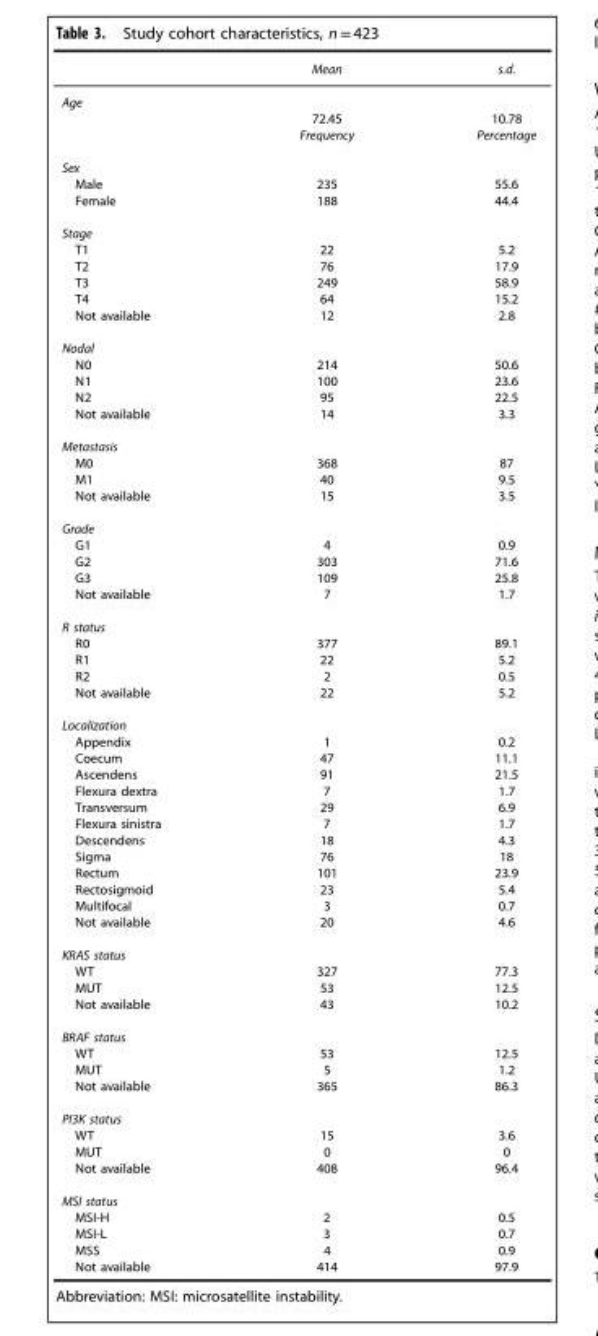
<table><thead><tr><td></td><td>Mean</td><td>s.d.</td></tr></thead><tbody><tr><td colspan="3">Age</td></tr><tr><td></td><td>72.45</td><td>10.78</td></tr><tr><td></td><td>Frequency</td><td>Percentage</td></tr><tr><td colspan="3">Sex</td></tr><tr><td>Male</td><td>235</td><td>55.6</td></tr><tr><td>Female</td><td>188</td><td>44.4</td></tr><tr><td colspan="3">Stage</td></tr><tr><td>T1</td><td>22</td><td>5.2</td></tr><tr><td>T2</td><td>76</td><td>17.9</td></tr><tr><td>T3</td><td>249</td><td>58.9</td></tr><tr><td>T4</td><td>64</td><td>15.2</td></tr><tr><td>Not available</td><td>12</td><td>2.8</td></tr><tr><td colspan="3">Nodal</td></tr><tr><td>N0</td><td>214</td><td>50.6</td></tr><tr><td>N1</td><td>100</td><td>23.6</td></tr><tr><td>N2</td><td>95</td><td>22.5</td></tr><tr><td>Not available</td><td>14</td><td>3.3</td></tr><tr><td colspan="3">Metastasis</td></tr><tr><td>M0</td><td>368</td><td>87</td></tr><tr><td>M1</td><td>40</td><td>9.5</td></tr><tr><td>Not available</td><td>15</td><td>3.5</td></tr><tr><td colspan="3">Grade</td></tr><tr><td>G1</td><td>4</td><td>0.9</td></tr><tr><td>G2</td><td>303</td><td>71.6</td></tr><tr><td>G3</td><td>109</td><td>25.8</td></tr><tr><td>Not available</td><td>7</td><td>1.7</td></tr><tr><td colspan="3">R status</td></tr><tr><td>R0</td><td>377</td><td>89.1</td></tr><tr><td>R1</td><td>22</td><td>5.2</td></tr><tr><td>R2</td><td>2</td><td>0.5</td></tr><tr><td>Not available</td><td>22</td><td>5.2</td></tr><tr><td colspan="3">Localization</td></tr><tr><td>Appendix</td><td>1</td><td>0.2</td></tr><tr><td>Coecum</td><td>47</td><td>11.1</td></tr><tr><td>Ascendens</td><td>91</td><td>21.5</td></tr><tr><td>Flexura dextra</td><td>7</td><td>1.7</td></tr><tr><td>Transversum</td><td>29</td><td>6.9</td></tr><tr><td>Flexura sinistra</td><td>7</td><td>1.7</td></tr><tr><td>Descendens</td><td>18</td><td>4.3</td></tr><tr><td>Sigma</td><td>76</td><td>18</td></tr><tr><td>Rectum</td><td>101</td><td>23.9</td></tr><tr><td>Rectosigmoid</td><td>23</td><td>5.4</td></tr><tr><td>Multifocal</td><td>3</td><td>0.7</td></tr><tr><td>Not available</td><td>20</td><td>4.6</td></tr><tr><td colspan="3">KRAS status</td></tr><tr><td>WT</td><td>327</td><td>77.3</td></tr><tr><td>MUT</td><td>53</td><td>12.5</td></tr><tr><td>Not available</td><td>43</td><td>10.2</td></tr><tr><td colspan="3">BRAF status</td></tr><tr><td>WT</td><td>53</td><td>12.5</td></tr><tr><td>MUT</td><td>5</td><td>1.2</td></tr><tr><td>Not available</td><td>365</td><td>86.3</td></tr><tr><td colspan="3">PI3K status</td></tr><tr><td>WT</td><td>15</td><td>3.6</td></tr><tr><td>MUT</td><td>0</td><td>0</td></tr><tr><td>Not available</td><td>408</td><td>96.4</td></tr><tr><td colspan="3">MSI status</td></tr><tr><td>MSI-H</td><td>2</td><td>0.5</td></tr><tr><td>MSI-L</td><td>3</td><td>0.7</td></tr><tr><td>MSS</td><td>4</td><td>0.9</td></tr><tr><td>Not available</td><td>414</td><td>97.9</td></tr></tbody></table>